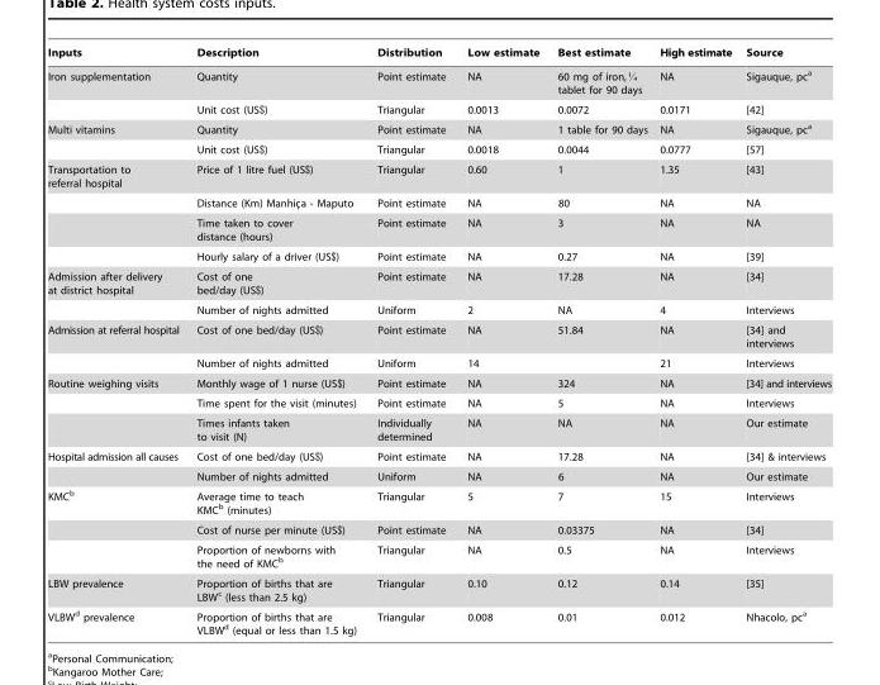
<table><thead><tr><td>Inputs</td><td>Description</td><td>Distribution</td><td>Low estimate</td><td>Best estimate</td><td>High estimate</td><td>Source</td></tr></thead><tbody><tr><td rowspan="2">Iron supplementation</td><td>Quantity</td><td>Point estimate</td><td>NA</td><td>60 mg of iron,J tablet for 90 days</td><td>NA</td><td>Sigauque, pc<sup>a</sup></td></tr><tr><td>Unit cost (US$)</td><td>Triangular</td><td>0.0013</td><td>0.0072</td><td>0.0171</td><td>[42]</td></tr><tr><td rowspan="2">Multi vitamins</td><td>Quantity</td><td>Point estimate</td><td>NA</td><td>1 table for 90 days</td><td>NA</td><td>Sigauque, pc<sup>a</sup></td></tr><tr><td>Unit cost (US$)</td><td>Triangular</td><td>0.0018</td><td>0.0044</td><td>0.0777</td><td>[57]</td></tr><tr><td rowspan="4">Transportation to referral hospital</td><td>Price of 1 litre fuel (US$)</td><td>Triangular</td><td>0.60</td><td>1</td><td>1.35</td><td>[43]</td></tr><tr><td>Distance (Km) Manhic¸a - Maputo</td><td>Point estimate</td><td>NA</td><td>80</td><td>NA</td><td>NA</td></tr><tr><td>Time taken to cover distance (hours)</td><td>Point estimate</td><td>NA</td><td>3</td><td>NA</td><td>NA</td></tr><tr><td>Hourly salary of a driver (US$)</td><td>Point estimate</td><td>NA</td><td>0.27</td><td>NA</td><td>[39]</td></tr><tr><td rowspan="2">Admission after delivery at district hospital</td><td>Cost of one bed/day (US$)</td><td>Point estimate</td><td>NA</td><td>17.28</td><td>NA</td><td>[34]</td></tr><tr><td>Number of nights admitted</td><td>Uniform</td><td>2</td><td>NA</td><td>4</td><td>Interviews</td></tr><tr><td rowspan="2">Admission at referral hospital</td><td>Cost of one bed/day (US$)</td><td>Point estimate</td><td>NA</td><td>51.84</td><td>NA</td><td>[34] and interviews</td></tr><tr><td>Number of nights admitted</td><td>Uniform</td><td>14</td><td></td><td>21</td><td>Interviews</td></tr><tr><td rowspan="3">Routine weighing visits</td><td>Monthly wage of 1 nurse (US$)</td><td>Point estimate</td><td>NA</td><td>324</td><td>NA</td><td>[34] and interviews</td></tr><tr><td>Time spent for the visit (minutes)</td><td>Point estimate</td><td>NA</td><td>5</td><td>NA</td><td>Interviews</td></tr><tr><td>Times infants taken to visit (N)</td><td>Individually determined</td><td>NA</td><td>NA</td><td>NA</td><td>Our estimate</td></tr><tr><td rowspan="2">Hospital admission all causes</td><td>Cost of one bed/day (US$)</td><td>Point estimate</td><td>NA</td><td>17.28</td><td>NA</td><td>[34] &amp; interviews</td></tr><tr><td>Number of nights admitted</td><td>Uniform</td><td>NA</td><td>6</td><td>NA</td><td>Our estimate</td></tr><tr><td rowspan="3">KMC<sup>b</sup></td><td>Average time to teach KMC<sup>b</sup> (minutes)</td><td>Triangular</td><td>5</td><td>7</td><td>15</td><td>Interviews</td></tr><tr><td>Cost of nurse per minute (US$)</td><td>Point estimate</td><td>NA</td><td>0.03375</td><td>NA</td><td>[34]</td></tr><tr><td>Proportion of newborns with the need of KMC<sup>b</sup></td><td>Triangular</td><td>NA</td><td>0.5</td><td>NA</td><td>Interviews</td></tr><tr><td>LBW prevalence</td><td>Proportion of births that are LBW<sup>c</sup> (less than 2.5 kg)</td><td>Triangular</td><td>0.10</td><td>0.12</td><td>0.14</td><td>[35]</td></tr><tr><td>VLBW<sup>d</sup> prevalence</td><td>Proportion of births that are VLBW<sup>d</sup> (equal or less than 1.5 kg)</td><td>Triangular</td><td>0.008</td><td>0.01</td><td>0.012</td><td>Nhacolo, pc<sup>a</sup></td></tr></tbody></table>